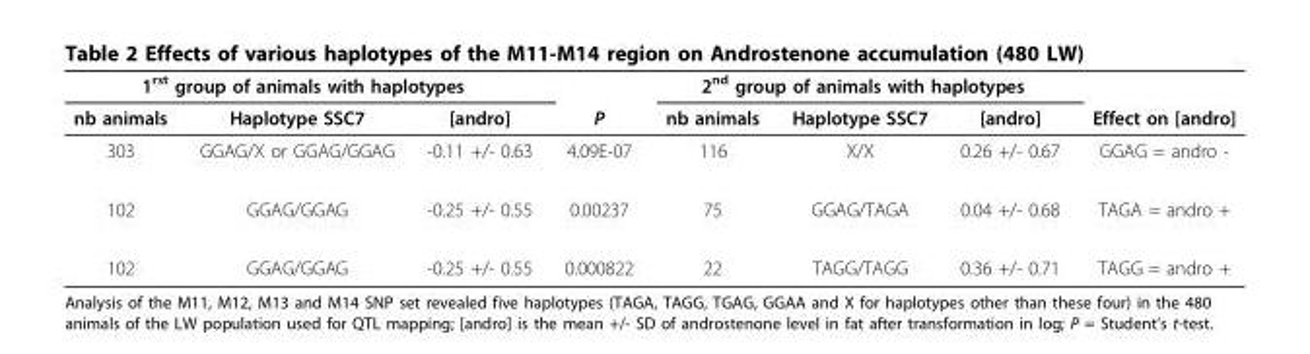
<table><thead><tr><td colspan="3">1<sup>rst</sup> group of animals with haplotypes</td><td rowspan="2">P</td><td colspan="3">2<sup>nd</sup> group of animals with haplotypes</td><td rowspan="2">Effect on [andro]</td></tr><tr><td>nb animals</td><td>Haplotype SSC7</td><td>[andro]</td><td>nb animals</td><td>Haplotype SSC7</td><td>[andro]</td></tr></thead><tbody><tr><td>303</td><td>GGAG/X or GGAG/GGAG</td><td>-0.11 +/- 0.63</td><td>4.09E-07</td><td>116</td><td>X/X</td><td>0.26 +/- 0.67</td><td>GGAG = andro -</td></tr><tr><td>102</td><td>GGAG/GGAG</td><td>-0.25 +/- 0.55</td><td>0.00237</td><td>75</td><td>GGAG/TAGA</td><td>0.04 +/- 0.68</td><td>TAGA = andro +</td></tr><tr><td>102</td><td>GGAG/GGAG</td><td>-0.25 +/- 0.55</td><td>0.000822</td><td>22</td><td>TAGG/TAGG</td><td>0.36 +/- 0.71</td><td>TAGG = andro +</td></tr></tbody></table>